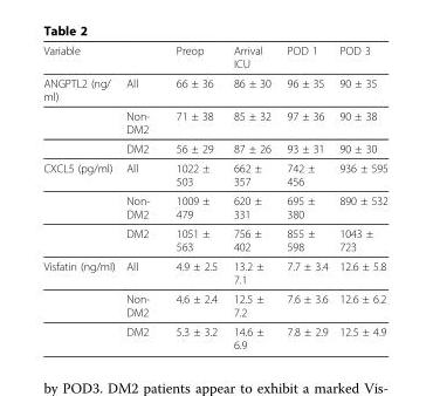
<table><thead><tr><td>Variable</td><td></td><td>Preop</td><td>Arrival ICU</td><td>POD 1</td><td>POD 3</td></tr></thead><tbody><tr><td rowspan="3">ANGPTL2 (ng/ ml)</td><td>All</td><td>66 ± 36</td><td>86 ± 30</td><td>96 ± 35</td><td>90 ± 35</td></tr><tr><td>Non- DM2</td><td>71 ± 38</td><td>85 ± 32</td><td>97 ± 36</td><td>90 ± 38</td></tr><tr><td>DM2</td><td>56 ± 29</td><td>87 ± 26</td><td>93 ± 31</td><td>90 ± 30</td></tr><tr><td rowspan="3">CXCL5 (pg/ml)</td><td>All</td><td>1022 ± 503</td><td>662 ± 357</td><td>742 ± 456</td><td>936 ± 595</td></tr><tr><td>Non- DM2</td><td>1009 ± 479</td><td>620 ± 331</td><td>695 ± 380</td><td>890 ± 532</td></tr><tr><td>DM2</td><td>1051 ± 563</td><td>756 ± 402</td><td>855 ± 598</td><td>1043 ± 723</td></tr><tr><td rowspan="3">Visfatin (ng/ml)</td><td>All</td><td>4.9 ± 2.5</td><td>13.2 ± 7.1</td><td>7.7 ± 3.4</td><td>12.6 ± 5.8</td></tr><tr><td>Non- DM2</td><td>4.6 ± 2.4</td><td>12.5 ± 7.2</td><td>7.6 ± 3.6</td><td>12.6 ± 6.2</td></tr><tr><td>DM2</td><td>5.3 ± 3.2</td><td>14.6 ± 6.9</td><td>7.8 ± 2.9</td><td>12.5 ± 4.9</td></tr></tbody></table>